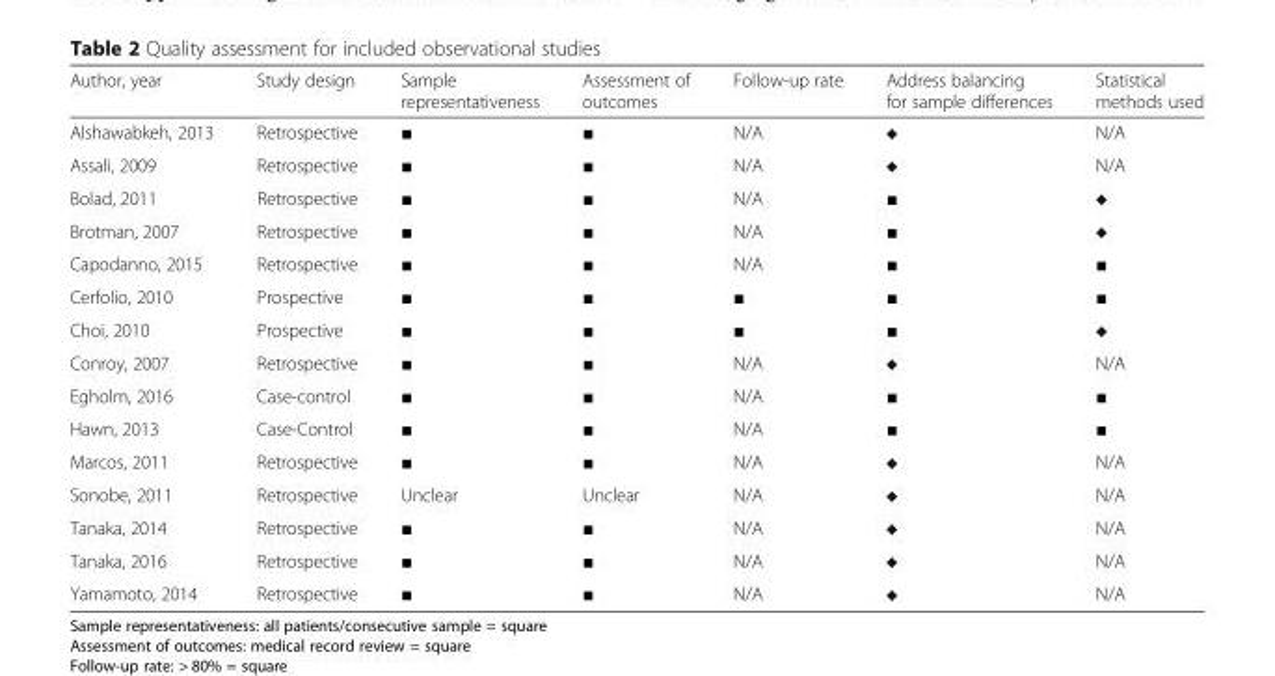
<table><thead><tr><td>Author, year</td><td>Study design</td><td>Sample representativeness</td><td>Assessment of outcomes</td><td>Follow-up rate</td><td>Address balancing for sample differences</td><td>Statistical methods used</td></tr></thead><tbody><tr><td>Alshawabkeh, 2013</td><td>Retrospective</td><td>■</td><td>■</td><td>N/A</td><td></td><td>N/A</td></tr><tr><td>Assali, 2009</td><td>Retrospective</td><td>■</td><td>■</td><td>N/A</td><td></td><td>N/A</td></tr><tr><td>Bolad, 2011</td><td>Retrospective</td><td>■</td><td>■</td><td>N/A</td><td>■</td><td></td></tr><tr><td>Brotman, 2007</td><td>Retrospective</td><td>■</td><td>■</td><td>N/A</td><td>■</td><td></td></tr><tr><td>Capodanno, 2015</td><td>Retrospective</td><td>■</td><td>■</td><td>N/A</td><td>■</td><td>■</td></tr><tr><td>Cerfolio, 2010</td><td>Prospective</td><td>■</td><td>■</td><td>■</td><td>■</td><td>■</td></tr><tr><td>Choi, 2010</td><td>Prospective</td><td>■</td><td>■</td><td>■</td><td>■</td><td></td></tr><tr><td>Conroy, 2007</td><td>Retrospective</td><td>■</td><td>■</td><td>N/A</td><td></td><td>N/A</td></tr><tr><td>Egholm, 2016</td><td>Case-control</td><td>■</td><td>■</td><td>N/A</td><td>■</td><td>■</td></tr><tr><td>Hawn, 2013</td><td>Case-Control</td><td>■</td><td>■</td><td>N/A</td><td>■</td><td>■</td></tr><tr><td>Marcos, 2011</td><td>Retrospective</td><td>■</td><td>■</td><td>N/A</td><td></td><td>N/A</td></tr><tr><td>Sonobe, 2011</td><td>Retrospective</td><td>Unclear</td><td>Unclear</td><td>N/A</td><td></td><td>N/A</td></tr><tr><td>Tanaka, 2014</td><td>Retrospective</td><td>■</td><td>■</td><td>N/A</td><td></td><td>N/A</td></tr><tr><td>Tanaka, 2016</td><td>Retrospective</td><td>■</td><td>■</td><td>N/A</td><td></td><td>N/A</td></tr><tr><td>Yamamoto, 2014</td><td>Retrospective</td><td>■</td><td>■</td><td>N/A</td><td></td><td>N/A</td></tr></tbody></table>